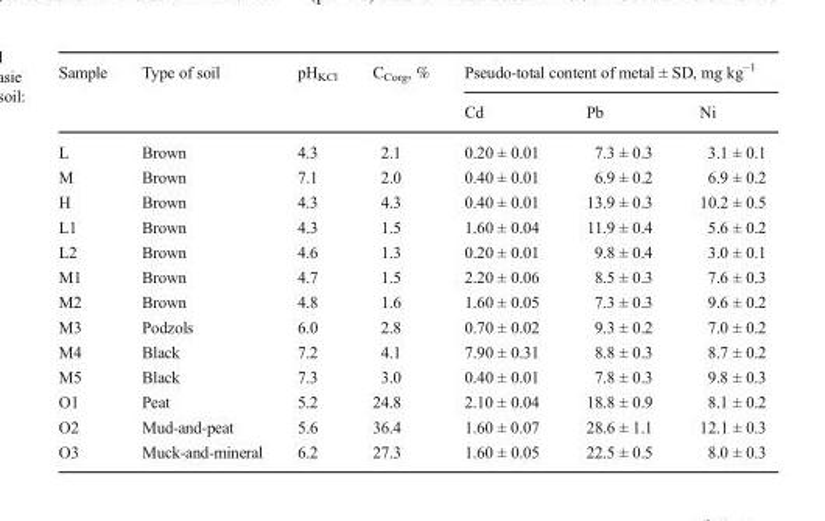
<table><thead><tr><td rowspan="2">Sample</td><td rowspan="2">Type of soil</td><td rowspan="2">pH<sub>KCl</sub></td><td rowspan="2">C<sub>Corg</sub>, %</td><td colspan="3">Pseudo-total content of metal ± SD, mg kg<sup>−1</sup></td></tr><tr><td>Cd</td><td>Pb</td><td>Ni</td></tr></thead><tbody><tr><td>L</td><td>Brown</td><td>4.3</td><td>2.1</td><td>0.20 ± 0.01</td><td>7.3 ± 0.3</td><td>3.1 ± 0.1</td></tr><tr><td>M</td><td>Brown</td><td>7.1</td><td>2.0</td><td>0.40 ± 0.01</td><td>6.9 ± 0.2</td><td>6.9 ± 0.2</td></tr><tr><td>H</td><td>Brown</td><td>4.3</td><td>4.3</td><td>0.40 ± 0.01</td><td>13.9 ± 0.3</td><td>10.2 ± 0.5</td></tr><tr><td>L1</td><td>Brown</td><td>4.3</td><td>1.5</td><td>1.60 ± 0.04</td><td>11.9 ± 0.4</td><td>5.6 ± 0.2</td></tr><tr><td>L2</td><td>Brown</td><td>4.6</td><td>1.3</td><td>0.20 ± 0.01</td><td>9.8 ± 0.4</td><td>3.0 ± 0.1</td></tr><tr><td>M1</td><td>Brown</td><td>4.7</td><td>1.5</td><td>2.20 ± 0.06</td><td>8.5 ± 0.3</td><td>7.6 ± 0.3</td></tr><tr><td>M2</td><td>Brown</td><td>4.8</td><td>1.6</td><td>1.60 ± 0.05</td><td>7.3 ± 0.3</td><td>9.6 ± 0.2</td></tr><tr><td>M3</td><td>Podzols</td><td>6.0</td><td>2.8</td><td>0.70 ± 0.02</td><td>9.3 ± 0.2</td><td>7.0 ± 0.2</td></tr><tr><td>M4</td><td>Black</td><td>7.2</td><td>4.1</td><td>7.90 ± 0.31</td><td>8.8 ± 0.3</td><td>8.7 ± 0.2</td></tr><tr><td>M5</td><td>Black</td><td>7.3</td><td>3.0</td><td>0.40 ± 0.01</td><td>7.8 ± 0.3</td><td>9.8 ± 0.3</td></tr><tr><td>O1</td><td>Peat</td><td>5.2</td><td>24.8</td><td>2.10 ± 0.04</td><td>18.8 ± 0.9</td><td>8.1 ± 0.2</td></tr><tr><td>O2</td><td>Mud-and-peat</td><td>5.6</td><td>36.4</td><td>1.60 ± 0.07</td><td>28.6 ± 1.1</td><td>12.1 ± 0.3</td></tr><tr><td>O3</td><td>Muck-and-mineral</td><td>6.2</td><td>27.3</td><td>1.60 ± 0.05</td><td>22.5 ± 0.5</td><td>8.0 ± 0.3</td></tr></tbody></table>